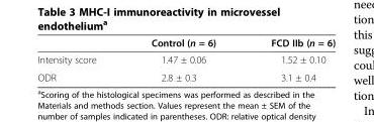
<table><thead><tr><td></td><td>Control (n = 6)</td><td>FCD IIb (n = 6)</td></tr></thead><tbody><tr><td>Intensity score</td><td>1.47 ± 0.06</td><td>1.52 ± 0.10</td></tr><tr><td>ODR</td><td>2.8 ± 0.3</td><td>3.1 ± 0.4</td></tr></tbody></table>